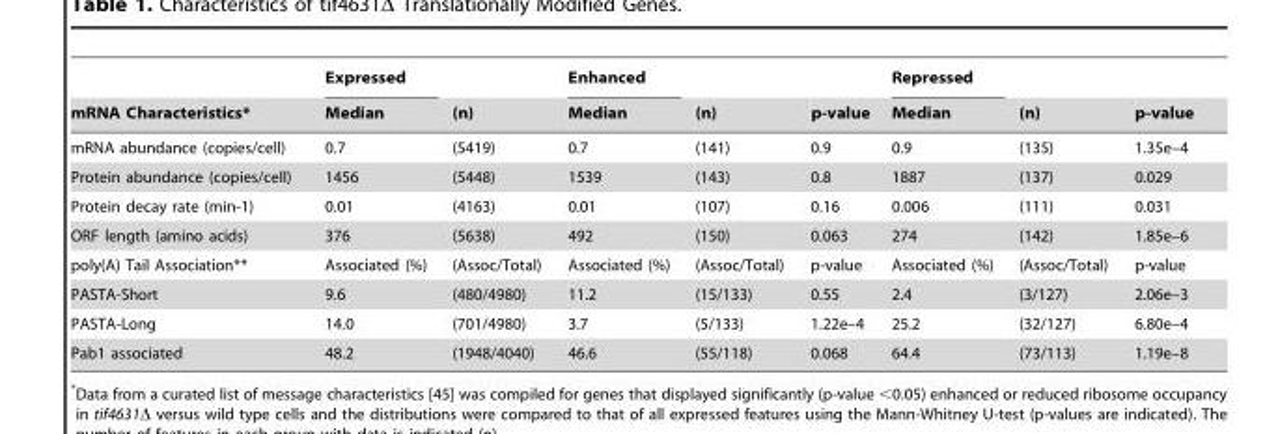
<table><thead><tr><td rowspan="2">mRNA Characteristics*</td><td rowspan="2">Expressed Median</td><td rowspan="2">(n)</td><td rowspan="2">Enhanced Median</td><td rowspan="2">(n)</td><td rowspan="2">p-value</td><td rowspan="2">Repressed Median</td><td rowspan="2">(n)</td><td rowspan="2">p-value</td></tr><tr></tr></thead><tbody><tr><td>mRNA abundance (copies/cell)</td><td>0.7</td><td>(5419)</td><td>0.7</td><td>(141)</td><td>0.9</td><td>0.9</td><td>(135)</td><td>1.35e–4</td></tr><tr><td>Protein abundance (copies/cell)</td><td>1456</td><td>(5448)</td><td>1539</td><td>(143)</td><td>0.8</td><td>1887</td><td>(137)</td><td>0.029</td></tr><tr><td>Protein decay rate (min-1)</td><td>0.01</td><td>(4163)</td><td>0.01</td><td>(107)</td><td>0.16</td><td>0.006</td><td>(111)</td><td>0.031</td></tr><tr><td>ORF length (amino acids)</td><td>376</td><td>(5638)</td><td>492</td><td>(150)</td><td>0.063</td><td>274</td><td>(142)</td><td>1.85e–6</td></tr><tr><td>poly(A) Tail Association**</td><td>Associated (%)</td><td>(Assoc/Total)</td><td>Associated (%)</td><td>(Assoc/Total)</td><td>p-value</td><td>Associated (%)</td><td>(Assoc/Total)</td><td>p-value</td></tr><tr><td>PASTA-Short</td><td>9.6</td><td>(480/4980)</td><td>11.2</td><td>(15/133)</td><td>0.55</td><td>2.4</td><td>(3/127)</td><td>2.06e–3</td></tr><tr><td>PASTA-Long</td><td>14.0</td><td>(701/4980)</td><td>3.7</td><td>(5/133)</td><td>1.22e–4</td><td>25.2</td><td>(32/127)</td><td>6.80e–4</td></tr><tr><td>Pab1 associated</td><td>48.2</td><td>(1948/4040)</td><td>46.6</td><td>(55/118)</td><td>0.068</td><td>64.4</td><td>(73/113)</td><td>1.19e–8</td></tr></tbody></table>